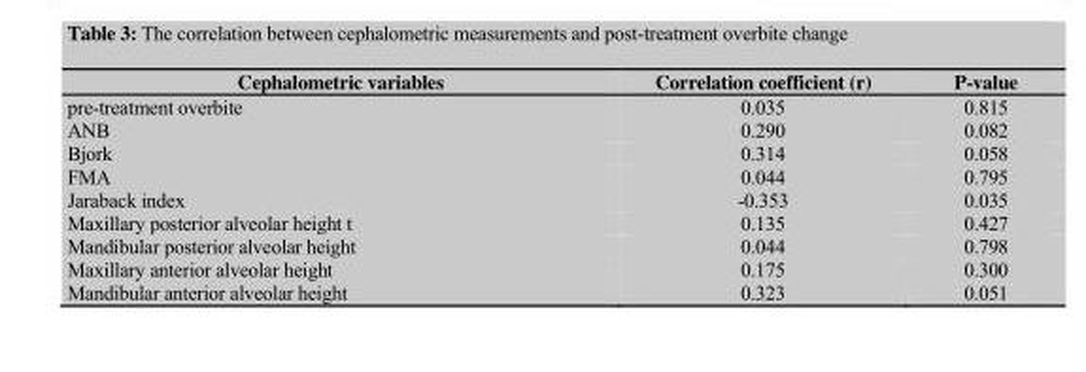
<table><thead><tr><td>Cephalometric variables</td><td>Correlation coefficient (r)</td><td>P-value</td></tr></thead><tbody><tr><td>pre-treatment overbite</td><td>0.035</td><td>0.815</td></tr><tr><td>ANB</td><td>0.290</td><td>0.082</td></tr><tr><td>Bjork</td><td>0.314</td><td>0.058</td></tr><tr><td>FMA</td><td>0.044</td><td>0.795</td></tr><tr><td>Jaraback index</td><td>-0.353</td><td>0.035</td></tr><tr><td>Maxillary posterior alveolar height t</td><td>0.135</td><td>0.427</td></tr><tr><td>Mandibular posterior alveolar height</td><td>0.044</td><td>0.798</td></tr><tr><td>Maxillary anterior alveolar height</td><td>0.175</td><td>0.300</td></tr><tr><td>Mandibular anterior alveolar height</td><td>0.323</td><td>0.051</td></tr></tbody></table>